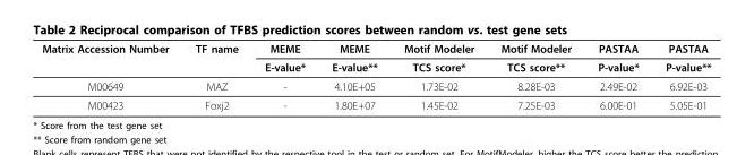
<table><thead><tr><td rowspan="2">Matrix Accession Number</td><td rowspan="2">TF name</td><td rowspan="2">MEME E-value*</td><td rowspan="2">MEME E-value**</td><td rowspan="2">Motif Modeler TCS score*</td><td rowspan="2">Motif Modeler TCS score**</td><td rowspan="2">PASTAA P-value*</td><td rowspan="2">PASTAA P-value**</td></tr><tr></tr></thead><tbody><tr><td>M00649</td><td>MAZ</td><td>-</td><td>4.10E+05</td><td>1.73E-02</td><td>8.28E-03</td><td>2.49E-02</td><td>6.92E-03</td></tr><tr><td>M00423</td><td>Foxj2</td><td>-</td><td>1.80E+07</td><td>1.45E-02</td><td>7.25E-03</td><td>6.00E-01</td><td>5.05E-01</td></tr></tbody></table>